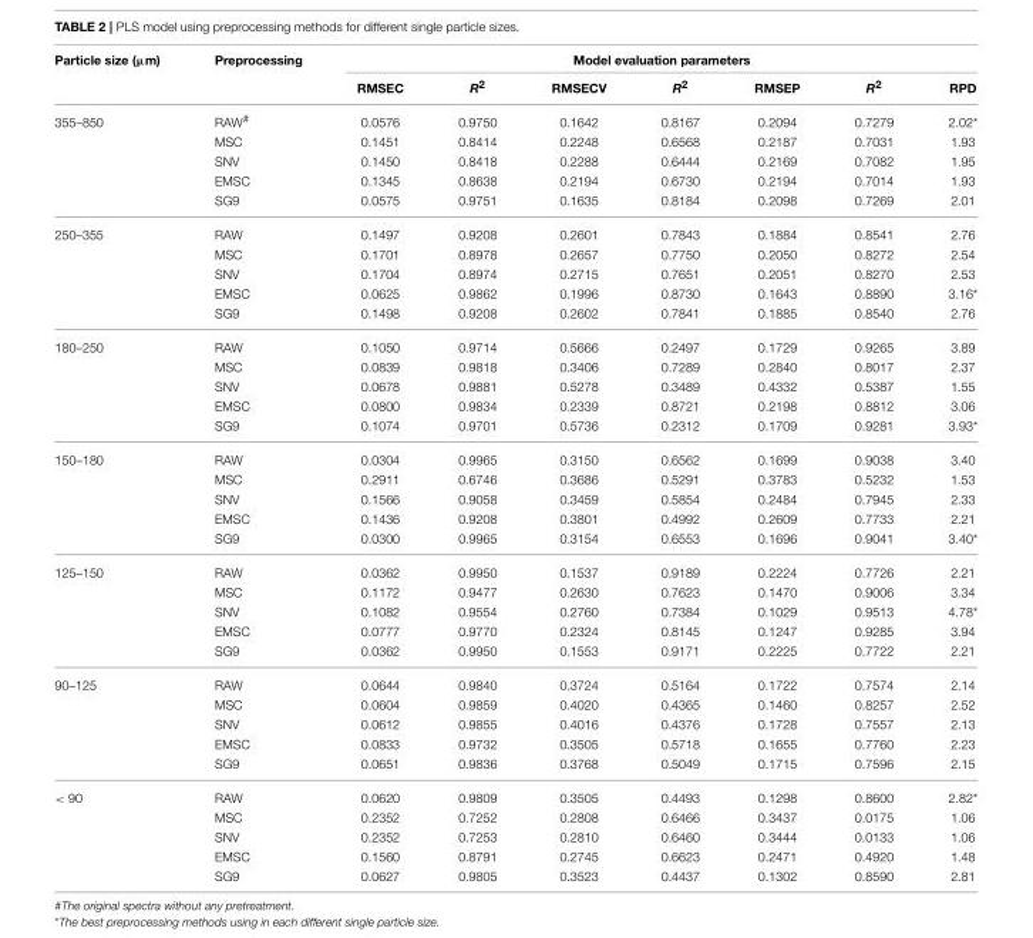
<table><thead><tr><td rowspan="2">Particle size (µm)</td><td rowspan="2">Preprocessing</td><td colspan="7">Model evaluation parameters</td></tr><tr><td>RMSEC</td><td>R<sup>2</sup></td><td>RMSECV</td><td>R<sup>2</sup></td><td>RMSEP</td><td>R<sup>2</sup></td><td>RPD</td></tr></thead><tbody><tr><td rowspan="5">355–850</td><td>RAW<sup>#</sup></td><td>0.0576</td><td>0.9750</td><td>0.1642</td><td>0.8167</td><td>0.2094</td><td>0.7279</td><td>2.02*</td></tr><tr><td>MSC</td><td>0.1451</td><td>0.8414</td><td>0.2248</td><td>0.6568</td><td>0.2187</td><td>0.7031</td><td>1.93</td></tr><tr><td>SNV</td><td>0.1450</td><td>0.8418</td><td>0.2288</td><td>0.6444</td><td>0.2169</td><td>0.7082</td><td>1.95</td></tr><tr><td>EMSC</td><td>0.1345</td><td>0.8638</td><td>0.2194</td><td>0.6730</td><td>0.2194</td><td>0.7014</td><td>1.93</td></tr><tr><td>SG9</td><td>0.0575</td><td>0.9751</td><td>0.1635</td><td>0.8184</td><td>0.2098</td><td>0.7269</td><td>2.01</td></tr><tr><td rowspan="5">250–355</td><td>RAW</td><td>0.1497</td><td>0.9208</td><td>0.2601</td><td>0.7843</td><td>0.1884</td><td>0.8541</td><td>2.76</td></tr><tr><td>MSC</td><td>0.1701</td><td>0.8978</td><td>0.2657</td><td>0.7750</td><td>0.2050</td><td>0.8272</td><td>2.54</td></tr><tr><td>SNV</td><td>0.1704</td><td>0.8974</td><td>0.2715</td><td>0.7651</td><td>0.2051</td><td>0.8270</td><td>2.53</td></tr><tr><td>EMSC</td><td>0.0625</td><td>0.9862</td><td>0.1996</td><td>0.8730</td><td>0.1643</td><td>0.8890</td><td>3.16*</td></tr><tr><td>SG9</td><td>0.1498</td><td>0.9208</td><td>0.2602</td><td>0.7841</td><td>0.1885</td><td>0.8540</td><td>2.76</td></tr><tr><td rowspan="5">180–250</td><td>RAW</td><td>0.1050</td><td>0.9714</td><td>0.5666</td><td>0.2497</td><td>0.1729</td><td>0.9265</td><td>3.89</td></tr><tr><td>MSC</td><td>0.0839</td><td>0.9818</td><td>0.3406</td><td>0.7289</td><td>0.2840</td><td>0.8017</td><td>2.37</td></tr><tr><td>SNV</td><td>0.0678</td><td>0.9881</td><td>0.5278</td><td>0.3489</td><td>0.4332</td><td>0.5387</td><td>1.55</td></tr><tr><td>EMSC</td><td>0.0800</td><td>0.9834</td><td>0.2339</td><td>0.8721</td><td>0.2198</td><td>0.8812</td><td>3.06</td></tr><tr><td>SG9</td><td>0.1074</td><td>0.9701</td><td>0.5736</td><td>0.2312</td><td>0.1709</td><td>0.9281</td><td>3.93*</td></tr><tr><td rowspan="5">150–180</td><td>RAW</td><td>0.0304</td><td>0.9965</td><td>0.3150</td><td>0.6562</td><td>0.1699</td><td>0.9038</td><td>3.40</td></tr><tr><td>MSC</td><td>0.2911</td><td>0.6746</td><td>0.3686</td><td>0.5291</td><td>0.3783</td><td>0.5232</td><td>1.53</td></tr><tr><td>SNV</td><td>0.1566</td><td>0.9058</td><td>0.3459</td><td>0.5854</td><td>0.2484</td><td>0.7945</td><td>2.33</td></tr><tr><td>EMSC</td><td>0.1436</td><td>0.9208</td><td>0.3801</td><td>0.4992</td><td>0.2609</td><td>0.7733</td><td>2.21</td></tr><tr><td>SG9</td><td>0.0300</td><td>0.9965</td><td>0.3154</td><td>0.6553</td><td>0.1696</td><td>0.9041</td><td>3.40*</td></tr><tr><td rowspan="5">125–150</td><td>RAW</td><td>0.0362</td><td>0.9950</td><td>0.1537</td><td>0.9189</td><td>0.2224</td><td>0.7726</td><td>2.21</td></tr><tr><td>MSC</td><td>0.1172</td><td>0.9477</td><td>0.2630</td><td>0.7623</td><td>0.1470</td><td>0.9006</td><td>3.34</td></tr><tr><td>SNV</td><td>0.1082</td><td>0.9554</td><td>0.2760</td><td>0.7384</td><td>0.1029</td><td>0.9513</td><td>4.78*</td></tr><tr><td>EMSC</td><td>0.0777</td><td>0.9770</td><td>0.2324</td><td>0.8145</td><td>0.1247</td><td>0.9285</td><td>3.94</td></tr><tr><td>SG9</td><td>0.0362</td><td>0.9950</td><td>0.1553</td><td>0.9171</td><td>0.2225</td><td>0.7722</td><td>2.21</td></tr><tr><td rowspan="5">90–125</td><td>RAW</td><td>0.0644</td><td>0.9840</td><td>0.3724</td><td>0.5164</td><td>0.1722</td><td>0.7574</td><td>2.14</td></tr><tr><td>MSC</td><td>0.0604</td><td>0.9859</td><td>0.4020</td><td>0.4365</td><td>0.1460</td><td>0.8257</td><td>2.52</td></tr><tr><td>SNV</td><td>0.0612</td><td>0.9855</td><td>0.4016</td><td>0.4376</td><td>0.1728</td><td>0.7557</td><td>2.13</td></tr><tr><td>EMSC</td><td>0.0833</td><td>0.9732</td><td>0.3505</td><td>0.5718</td><td>0.1655</td><td>0.7760</td><td>2.23</td></tr><tr><td>SG9</td><td>0.0651</td><td>0.9836</td><td>0.3768</td><td>0.5049</td><td>0.1715</td><td>0.7596</td><td>2.15</td></tr><tr><td rowspan="5">&lt; 90</td><td>RAW</td><td>0.0620</td><td>0.9809</td><td>0.3505</td><td>0.4493</td><td>0.1298</td><td>0.8600</td><td>2.82*</td></tr><tr><td>MSC</td><td>0.2352</td><td>0.7252</td><td>0.2808</td><td>0.6466</td><td>0.3437</td><td>0.0175</td><td>1.06</td></tr><tr><td>SNV</td><td>0.2352</td><td>0.7253</td><td>0.2810</td><td>0.6460</td><td>0.3444</td><td>0.0133</td><td>1.06</td></tr><tr><td>EMSC</td><td>0.1560</td><td>0.8791</td><td>0.2745</td><td>0.6623</td><td>0.2471</td><td>0.4920</td><td>1.48</td></tr><tr><td>SG9</td><td>0.0627</td><td>0.9805</td><td>0.3523</td><td>0.4437</td><td>0.1302</td><td>0.8590</td><td>2.81</td></tr></tbody></table>